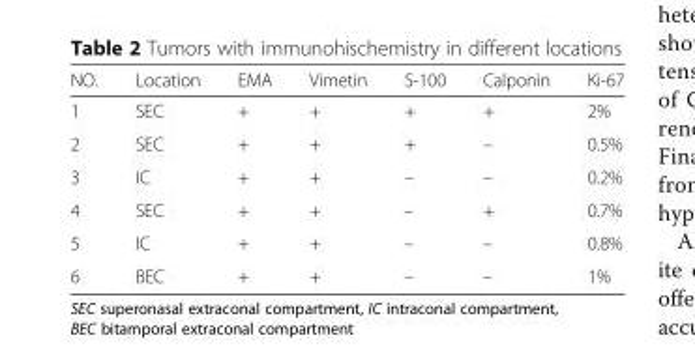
<table><thead><tr><td>NO.</td><td>Location</td><td>EMA</td><td>Vimetin</td><td>S-100</td><td>Calponin</td><td>Ki-67</td></tr></thead><tbody><tr><td>1</td><td>SEC</td><td>+</td><td>+</td><td>+</td><td>+</td><td>2%</td></tr><tr><td>2</td><td>SEC</td><td>+</td><td>+</td><td>+</td><td>–</td><td>0.5%</td></tr><tr><td>3</td><td>IC</td><td>+</td><td>+</td><td>–</td><td>–</td><td>0.2%</td></tr><tr><td>4</td><td>SEC</td><td>+</td><td>+</td><td>–</td><td>+</td><td>0.7%</td></tr><tr><td>5</td><td>IC</td><td>+</td><td>+</td><td>–</td><td>–</td><td>0.8%</td></tr><tr><td>6</td><td>BEC</td><td>+</td><td>+</td><td>–</td><td>–</td><td>1%</td></tr></tbody></table>